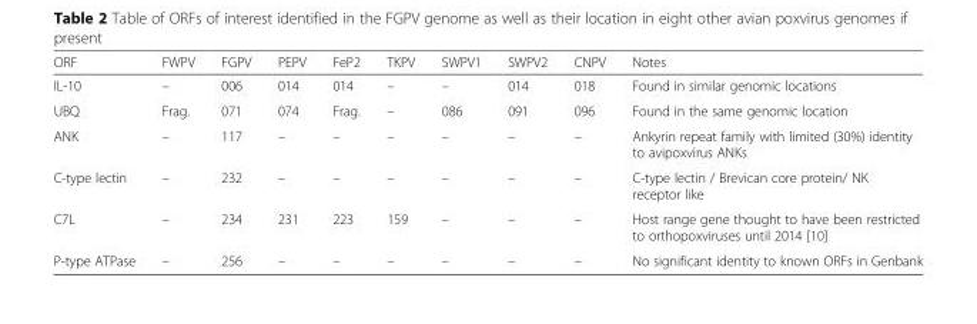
<table><thead><tr><td>ORF</td><td>FWPV</td><td>FGPV</td><td>PEPV</td><td>FeP2</td><td>TKPV</td><td>SWPV1</td><td>SWPV2</td><td>CNPV</td><td>Notes</td></tr></thead><tbody><tr><td>IL-10</td><td>–</td><td>006</td><td>014</td><td>014</td><td>–</td><td>–</td><td>014</td><td>018</td><td>Found in similar genomic locations</td></tr><tr><td>UBQ</td><td>Frag.</td><td>071</td><td>074</td><td>Frag.</td><td>–</td><td>086</td><td>091</td><td>096</td><td>Found in the same genomic location</td></tr><tr><td>ANK</td><td>–</td><td>117</td><td>–</td><td>–</td><td>–</td><td>–</td><td>–</td><td>–</td><td>Ankyrin repeat family with limited (30%) identity to avipoxvirus ANKs</td></tr><tr><td>C-type lectin</td><td>–</td><td>232</td><td>–</td><td>–</td><td>–</td><td>–</td><td>–</td><td>–</td><td>C-type lectin / Brevican core protein/ NK receptor like</td></tr><tr><td>C7L</td><td>–</td><td>234</td><td>231</td><td>223</td><td>159</td><td>–</td><td>–</td><td>–</td><td>Host range gene thought to have been restricted to orthopoxviruses until 2014 [10]</td></tr><tr><td>P-type ATPase</td><td>–</td><td>256</td><td>–</td><td>–</td><td>–</td><td>–</td><td>–</td><td>–</td><td>No significant identity to known ORFs in Genbank</td></tr></tbody></table>